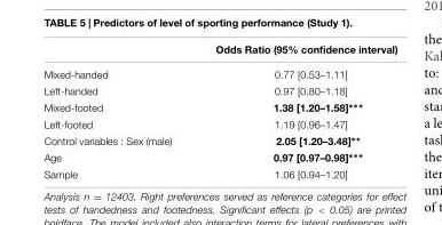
<table><thead><tr><td></td><td>Odds Ratio (95% confidence interval)</td></tr></thead><tbody><tr><td>Mixed-handed</td><td>0.77 [0.53–1.11]</td></tr><tr><td>Left-handed</td><td>0.97 [0.80–1.18]</td></tr><tr><td>Mixed-footed</td><td>1.38 [1.20–1.58]∗∗∗</td></tr><tr><td>Left-footed</td><td>1.19 [0.96–1.47]</td></tr><tr><td>Control variables : Sex (male)</td><td>2.05 [1.20–3.48]∗∗</td></tr><tr><td>Age</td><td>0.97 [0.97–0.98]∗∗∗</td></tr><tr><td>Sample</td><td>1.06 [0.94–1.20]</td></tr></tbody></table>